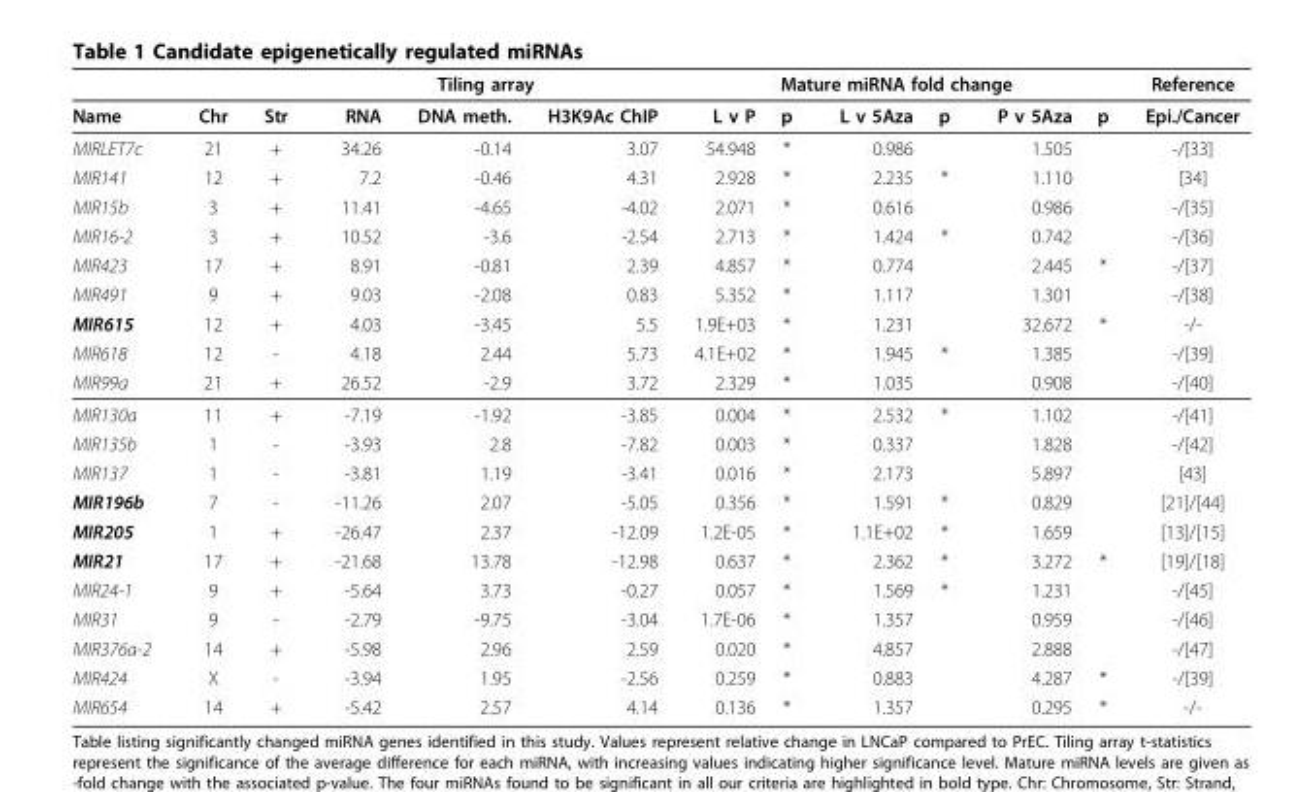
<table><thead><tr><td rowspan="2">Name</td><td rowspan="2">Chr</td><td rowspan="2">Str</td><td colspan="3">Tiling array</td><td colspan="6">Mature miRNA fold change</td><td rowspan="2">Reference Epi./Cancer</td></tr><tr><td>RNA</td><td>DNA meth.</td><td>H3K9Ac ChIP</td><td>L v P</td><td>p</td><td>L v 5Aza</td><td>p</td><td>P v 5Aza</td><td>p</td></tr></thead><tbody><tr><td>MIRLET7c</td><td>21</td><td>+</td><td>34.26</td><td>-0.14</td><td>3.07</td><td>54.948</td><td>*</td><td>0.986</td><td></td><td>1.505</td><td></td><td>-/[33]</td></tr><tr><td>MIR141</td><td>12</td><td>+</td><td>7.2</td><td>-0.46</td><td>4.31</td><td>2.928</td><td>*</td><td>2.235</td><td>*</td><td>1.110</td><td></td><td>[34]</td></tr><tr><td>MIR15b</td><td>3</td><td>+</td><td>11.41</td><td>-4.65</td><td>-4.02</td><td>2.071</td><td>*</td><td>0.616</td><td></td><td>0.986</td><td></td><td>-/[35]</td></tr><tr><td>MIR16-2</td><td>3</td><td>+</td><td>10.52</td><td>-3.6</td><td>-2.54</td><td>2.713</td><td>*</td><td>1.424</td><td>*</td><td>0.742</td><td></td><td>-/[36]</td></tr><tr><td>MIR423</td><td>17</td><td>+</td><td>8.91</td><td>-0.81</td><td>2.39</td><td>4.857</td><td>*</td><td>0.774</td><td></td><td>2.445</td><td>*</td><td>-/[37]</td></tr><tr><td>MIR491</td><td>9</td><td>+</td><td>9.03</td><td>-2.08</td><td>0.83</td><td>5.352</td><td>*</td><td>1.117</td><td></td><td>1.301</td><td></td><td>-/[38]</td></tr><tr><td>MIR615</td><td>12</td><td>+</td><td>4.03</td><td>-3.45</td><td>5.5</td><td>1.9E+03</td><td>*</td><td>1.231</td><td></td><td>32.672</td><td>*</td><td>-/-</td></tr><tr><td>MIR618</td><td>12</td><td>-</td><td>4.18</td><td>2.44</td><td>5.73</td><td>4.1E+02</td><td>*</td><td>1.945</td><td>*</td><td>1.385</td><td></td><td>-/[39]</td></tr><tr><td>MIR99a</td><td>21</td><td>+</td><td>26.52</td><td>-2.9</td><td>3.72</td><td>2.329</td><td>*</td><td>1.035</td><td></td><td>0.908</td><td></td><td>-/[40]</td></tr><tr><td>MIR130a</td><td>11</td><td>+</td><td>-7.19</td><td>-1.92</td><td>-3.85</td><td>0.004</td><td>*</td><td>2.532</td><td>*</td><td>1.102</td><td></td><td>-/[41]</td></tr><tr><td>MIR135b</td><td>1</td><td>-</td><td>-3.93</td><td>2.8</td><td>-7.82</td><td>0.003</td><td>*</td><td>0.337</td><td></td><td>1.828</td><td></td><td>-/[42]</td></tr><tr><td>MIR137</td><td>1</td><td>-</td><td>-3.81</td><td>1.19</td><td>-3.41</td><td>0.016</td><td>*</td><td>2.173</td><td></td><td>5.897</td><td></td><td>[43]</td></tr><tr><td>MIR196b</td><td>7</td><td>-</td><td>-11.26</td><td>2.07</td><td>-5.05</td><td>0.356</td><td>*</td><td>1.591</td><td>*</td><td>0.829</td><td></td><td>[21]/[44]</td></tr><tr><td>MIR205</td><td>1</td><td>+</td><td>-26.47</td><td>2.37</td><td>-12.09</td><td>1.2E-05</td><td>*</td><td>1.1E+02</td><td>*</td><td>1.659</td><td></td><td>[13]/[15]</td></tr><tr><td>MIR21</td><td>17</td><td>+</td><td>-21.68</td><td>13.78</td><td>-12.98</td><td>0.637</td><td>*</td><td>2.362</td><td>*</td><td>3.272</td><td>*</td><td>[19]/[18]</td></tr><tr><td>MIR24-1</td><td>9</td><td>+</td><td>-5.64</td><td>3.73</td><td>-0.27</td><td>0.057</td><td>*</td><td>1.569</td><td>*</td><td>1.231</td><td></td><td>-/[45]</td></tr><tr><td>MIR31</td><td>9</td><td>-</td><td>-2.79</td><td>-9.75</td><td>-3.04</td><td>1.7E-06</td><td>*</td><td>1.357</td><td></td><td>0.959</td><td></td><td>-/[46]</td></tr><tr><td>MIR376a-2</td><td>14</td><td>+</td><td>-5.98</td><td>2.96</td><td>2.59</td><td>0.020</td><td>*</td><td>4.857</td><td></td><td>2.888</td><td></td><td>-/[47]</td></tr><tr><td>MIR424</td><td>X</td><td>-</td><td>-3.94</td><td>1.95</td><td>-2.56</td><td>0.259</td><td>*</td><td>0.883</td><td></td><td>4.287</td><td>*</td><td>-/[39]</td></tr><tr><td>MIR654</td><td>14</td><td>+</td><td>-5.42</td><td>2.57</td><td>4.14</td><td>0.136</td><td>*</td><td>1.357</td><td></td><td>0.295</td><td>*</td><td>-/-</td></tr></tbody></table>